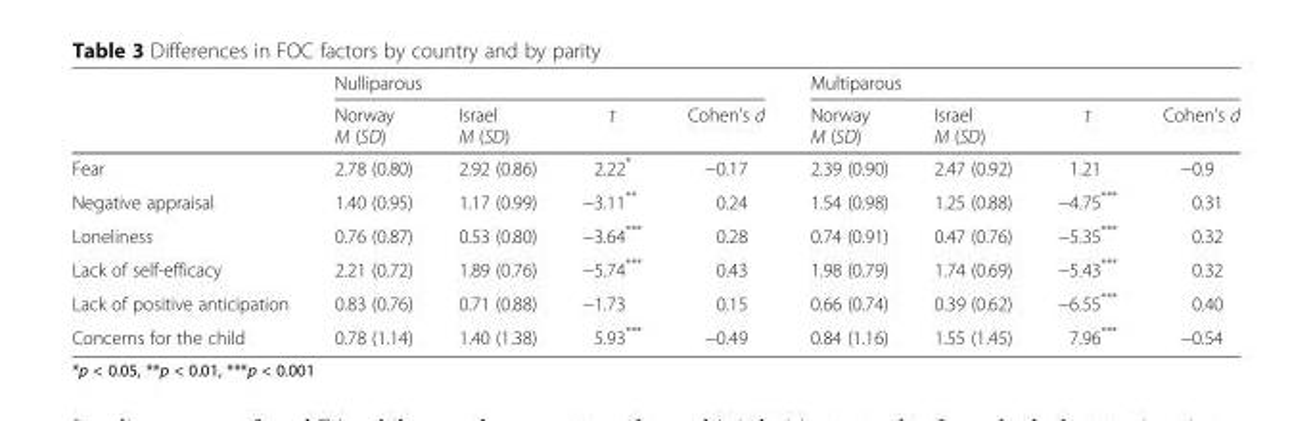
<table><thead><tr><td rowspan="2"></td><td colspan="4">Nulliparous</td><td colspan="4">Multiparous</td></tr><tr><td>Norway M (SD)</td><td>Israel M (SD)</td><td>t</td><td>Cohen’s d</td><td>Norway M (SD)</td><td>Israel M (SD)</td><td>t</td><td>Cohen’s d</td></tr></thead><tbody><tr><td>Fear</td><td>2.78 (0.80)</td><td>2.92 (0.86)</td><td>2.22*</td><td>−0.17</td><td>2.39 (0.90)</td><td>2.47 (0.92)</td><td>1.21</td><td>−0.9</td></tr><tr><td>Negative appraisal</td><td>1.40 (0.95)</td><td>1.17 (0.99)</td><td>−3.11**</td><td>0.24</td><td>1.54 (0.98)</td><td>1.25 (0.88)</td><td>−4.75***</td><td>0.31</td></tr><tr><td>Loneliness</td><td>0.76 (0.87)</td><td>0.53 (0.80)</td><td>−3.64***</td><td>0.28</td><td>0.74 (0.91)</td><td>0.47 (0.76)</td><td>−5.35***</td><td>0.32</td></tr><tr><td>Lack of self-efficacy</td><td>2.21 (0.72)</td><td>1.89 (0.76)</td><td>−5.74***</td><td>0.43</td><td>1.98 (0.79)</td><td>1.74 (0.69)</td><td>−5.43***</td><td>0.32</td></tr><tr><td>Lack of positive anticipation</td><td>0.83 (0.76)</td><td>0.71 (0.88)</td><td>−1.73</td><td>0.15</td><td>0.66 (0.74)</td><td>0.39 (0.62)</td><td>−6.55***</td><td>0.40</td></tr><tr><td>Concerns for the child</td><td>0.78 (1.14)</td><td>1.40 (1.38)</td><td>5.93***</td><td>−0.49</td><td>0.84 (1.16)</td><td>1.55 (1.45)</td><td>7.96***</td><td>−0.54</td></tr></tbody></table>